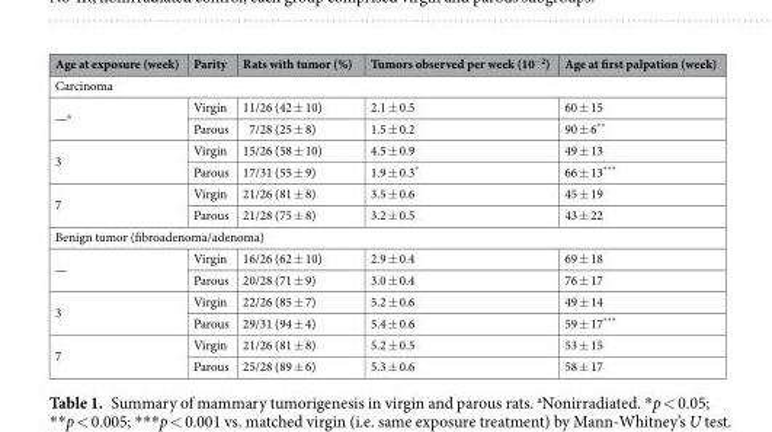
<table><thead><tr><td>Age at exposure (week)</td><td>Parity</td><td>Rats with tumor (%)</td><td>Tumors observed per week (10<sup>−2</sup>)</td><td>Age at first palpation (week)</td></tr></thead><tbody><tr><td colspan="5">Carcinoma</td></tr><tr><td rowspan="2">—<sup>a</sup></td><td>Virgin</td><td>11/26 (42 ± 10)</td><td>2.1 ± 0.5</td><td>60 ± 15</td></tr><tr><td>Parous</td><td>7/28 (25 ± 8)</td><td>1.5 ± 0.2</td><td>90 ± 6**</td></tr><tr><td rowspan="2">3</td><td>Virgin</td><td>15/26 (58 ± 10)</td><td>4.5 ± 0.9</td><td>49 ± 13</td></tr><tr><td>Parous</td><td>17/31 (55 ± 9)</td><td>1.9 ± 0.3*</td><td>66 ± 13***</td></tr><tr><td rowspan="2">7</td><td>Virgin</td><td>21/26 (81 ± 8)</td><td>3.5 ± 0.6</td><td>45 ± 19</td></tr><tr><td>Parous</td><td>21/28 (75 ± 8)</td><td>3.2 ± 0.5</td><td>43 ± 22</td></tr><tr><td colspan="5">Benign tumor (fibroadenoma/adenoma)</td></tr><tr><td rowspan="2">—</td><td>Virgin</td><td>16/26 (62 ± 10)</td><td>2.9 ± 0.4</td><td>69 ± 18</td></tr><tr><td>Parous</td><td>20/28 (71 ± 9)</td><td>3.0 ± 0.4</td><td>76 ± 17</td></tr><tr><td rowspan="2">3</td><td>Virgin</td><td>22/26 (85 ± 7)</td><td>5.2 ± 0.6</td><td>49 ± 14</td></tr><tr><td>Parous</td><td>29/31 (94 ± 4)</td><td>5.4 ± 0.6</td><td>59 ± 17***</td></tr><tr><td rowspan="2">7</td><td>Virgin</td><td>21/26 (81 ± 8)</td><td>5.2 ± 0.5</td><td>53 ± 15</td></tr><tr><td>Parous</td><td>25/28 (89 ± 6)</td><td>5.3 ± 0.6</td><td>58 ± 17</td></tr></tbody></table>